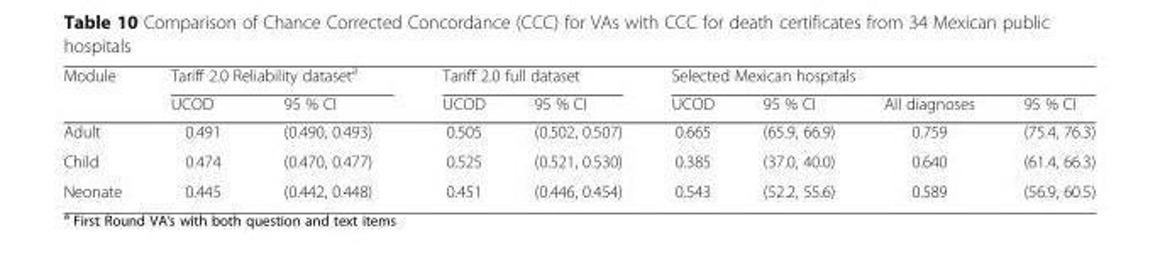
<table><thead><tr><td rowspan="2">Module</td><td colspan="2">Tariff 2.0 Reliability dataset<sup>a</sup></td><td colspan="2">Tariff 2.0 full dataset</td><td colspan="4">Selected Mexican hospitals</td></tr><tr><td>UCOD</td><td>95 % CI</td><td>UCOD</td><td>95 % CI</td><td>UCOD</td><td>95 % CI</td><td>All diagnoses</td><td>95 % CI</td></tr></thead><tbody><tr><td>Adult</td><td>0.491</td><td>(0.490, 0.493)</td><td>0.505</td><td>(0.502, 0.507)</td><td>0.665</td><td>(65.9, 66.9)</td><td>0.759</td><td>(75.4, 76.3)</td></tr><tr><td>Child</td><td>0.474</td><td>(0.470, 0.477)</td><td>0.525</td><td>(0.521, 0.530)</td><td>0.385</td><td>(37.0, 40.0)</td><td>0.640</td><td>(61.4, 66.3)</td></tr><tr><td>Neonate</td><td>0.445</td><td>(0.442, 0.448)</td><td>0.451</td><td>(0.446, 0.454)</td><td>0.543</td><td>(52.2, 55.6)</td><td>0.589</td><td>(56.9, 60.5)</td></tr></tbody></table>